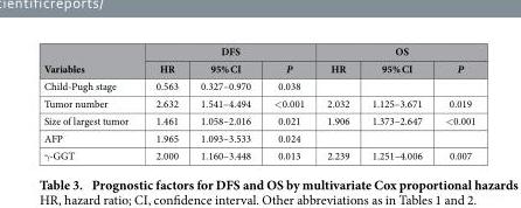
<table><thead><tr><td rowspan="2">Variables</td><td colspan="3">DFS</td><td colspan="3">OS</td></tr><tr><td>HR</td><td>95% CI</td><td>P</td><td>HR</td><td>95% CI</td><td>P</td></tr></thead><tbody><tr><td>Child-Pugh stage</td><td>0.563</td><td>0.327–0.970</td><td>0.038</td><td></td><td></td><td></td></tr><tr><td>Tumor number</td><td>2.632</td><td>1.541–4.494</td><td>&lt; 0.001</td><td>2.032</td><td>1.125–3.671</td><td>0.019</td></tr><tr><td>Size of largest tumor</td><td>1.461</td><td>1.058–2.016</td><td>0.021</td><td>1.906</td><td>1.373–2.647</td><td>&lt; 0.001</td></tr><tr><td>AFP</td><td>1.965</td><td>1.093–3.533</td><td>0.024</td><td></td><td></td><td></td></tr><tr><td>γ -GGT</td><td>2.000</td><td>1.160–3.448</td><td>0.013</td><td>2.239</td><td>1.251–4.006</td><td>0.007</td></tr></tbody></table>